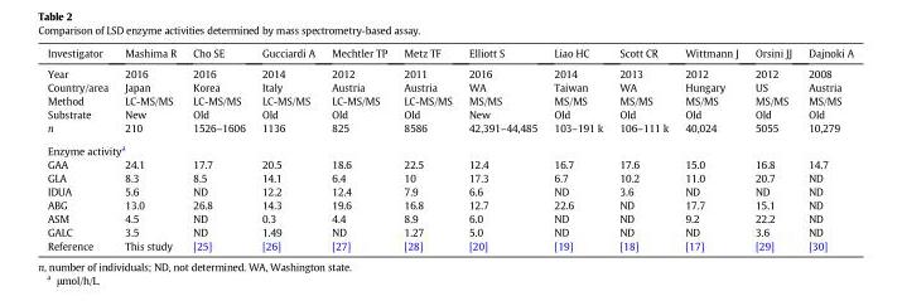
<table><thead><tr><td>Investigator</td><td>Mashima R</td><td>Cho SE</td><td>Gucciardi A</td><td>Mechtler TP</td><td>Metz TF</td><td>Elliott S</td><td>Liao HC</td><td>Scott CR</td><td>Wittmann J</td><td>Orsini JJ</td><td>Dajnoki A</td></tr></thead><tbody><tr><td>Year</td><td>2016</td><td>2016</td><td>2014</td><td>2012</td><td>2011</td><td>2016</td><td>2014</td><td>2013</td><td>2012</td><td>2012</td><td>2008</td></tr><tr><td>Country/area</td><td>Japan</td><td>Korea</td><td>Italy</td><td>Austria</td><td>Austria</td><td>WA</td><td>Taiwan</td><td>WA</td><td>Hungary</td><td>US</td><td>Austria</td></tr><tr><td>Method</td><td>LC-MS/MS</td><td>LC-MS/MS</td><td>LC-MS/MS</td><td>LC-MS/MS</td><td>LC-MS/MS</td><td>MS/MS</td><td>MS/MS</td><td>MS/MS</td><td>MS/MS</td><td>MS/MS</td><td>MS/MS</td></tr><tr><td>Substrate</td><td>New</td><td>Old</td><td>Old</td><td>Old</td><td>Old</td><td>New</td><td>Old</td><td>Old</td><td>Old</td><td>Old</td><td>Old</td></tr><tr><td>n</td><td>210</td><td>1526–1606</td><td>1136</td><td>825</td><td>8586</td><td>42,391–44,485</td><td>103–191 k</td><td>106–111 k</td><td>40,024</td><td>5055</td><td>10,279</td></tr><tr><td colspan="12">Enzyme activity<sup>a</sup></td></tr><tr><td>GAA</td><td>24.1</td><td>17.7</td><td>20.5</td><td>18.6</td><td>22.5</td><td>12.4</td><td>16.7</td><td>17.6</td><td>15.0</td><td>16.8</td><td>14.7</td></tr><tr><td>GLA</td><td>8.3</td><td>8.5</td><td>14.1</td><td>6.4</td><td>10</td><td>17.3</td><td>6.7</td><td>10.2</td><td>11.0</td><td>20.7</td><td>ND</td></tr><tr><td>IDUA</td><td>5.6</td><td>ND</td><td>12.2</td><td>12.4</td><td>7.9</td><td>6.6</td><td>ND</td><td>3.6</td><td>ND</td><td>ND</td><td>ND</td></tr><tr><td>ABG</td><td>13.0</td><td>26.8</td><td>14.3</td><td>19.6</td><td>16.8</td><td>12.7</td><td>22.6</td><td>ND</td><td>17.7</td><td>15.1</td><td>ND</td></tr><tr><td>ASM</td><td>4.5</td><td>ND</td><td>0.3</td><td>4.4</td><td>8.9</td><td>6.0</td><td>ND</td><td>ND</td><td>9.2</td><td>22.2</td><td>ND</td></tr><tr><td>GALC</td><td>3.5</td><td>ND</td><td>1.49</td><td>ND</td><td>1.27</td><td>5.0</td><td>ND</td><td>ND</td><td>ND</td><td>3.6</td><td>ND</td></tr><tr><td>Reference</td><td>This study</td><td>[25]</td><td>[26]</td><td>[27]</td><td>[28]</td><td>[20]</td><td>[19]</td><td>[18]</td><td>[17]</td><td>[29]</td><td>[30]</td></tr></tbody></table>